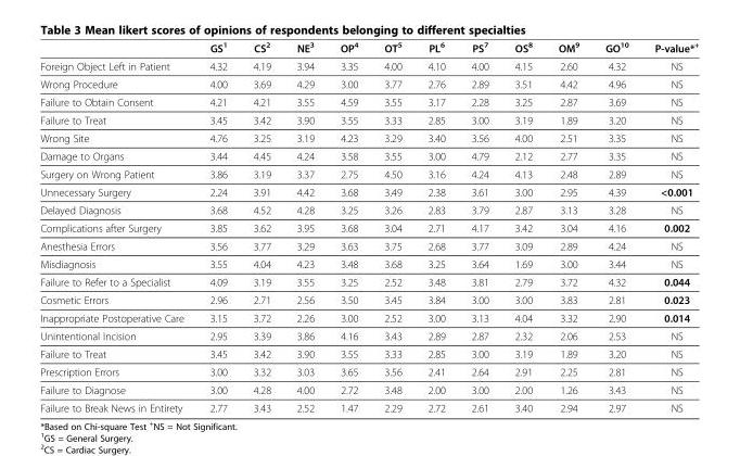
<table><thead><tr><td></td><td>GS<sup>1</sup></td><td>CS<sup>2</sup></td><td>NE<sup>3</sup></td><td>OP<sup>4</sup></td><td>OT<sup>5</sup></td><td>PL<sup>6</sup></td><td>PS<sup>7</sup></td><td>OS<sup>8</sup></td><td>OM<sup>9</sup></td><td>GO<sup>10</sup></td><td>P-value*<sup>+</sup></td></tr></thead><tbody><tr><td>Foreign Object Left in Patient</td><td>4.32</td><td>4.19</td><td>3.94</td><td>3.35</td><td>4.00</td><td>4.10</td><td>4.00</td><td>4.15</td><td>2.60</td><td>4.32</td><td>NS</td></tr><tr><td>Wrong Procedure</td><td>4.00</td><td>3.69</td><td>4.29</td><td>3.00</td><td>3.77</td><td>2.76</td><td>2.89</td><td>3.51</td><td>4.42</td><td>4.96</td><td>NS</td></tr><tr><td>Failure to Obtain Consent</td><td>4.21</td><td>4.21</td><td>3.55</td><td>4.59</td><td>3.55</td><td>3.17</td><td>2.28</td><td>3.25</td><td>2.87</td><td>3.69</td><td>NS</td></tr><tr><td>Failure to Treat</td><td>3.45</td><td>3.42</td><td>3.90</td><td>3.55</td><td>3.33</td><td>2.85</td><td>3.00</td><td>3.19</td><td>1.89</td><td>3.20</td><td>NS</td></tr><tr><td>Wrong Site</td><td>4.76</td><td>3.25</td><td>3.19</td><td>4.23</td><td>3.29</td><td>3.40</td><td>3.56</td><td>4.00</td><td>2.51</td><td>3.35</td><td>NS</td></tr><tr><td>Damage to Organs</td><td>3.44</td><td>4.45</td><td>4.24</td><td>3.58</td><td>3.55</td><td>3.00</td><td>4.79</td><td>2.12</td><td>2.77</td><td>3.35</td><td>NS</td></tr><tr><td>Surgery on Wrong Patient</td><td>3.86</td><td>3.19</td><td>3.37</td><td>2.75</td><td>4.50</td><td>3.16</td><td>4.24</td><td>4.13</td><td>2.48</td><td>2.89</td><td>NS</td></tr><tr><td>Unnecessary Surgery</td><td>2.24</td><td>3.91</td><td>4.42</td><td>3.68</td><td>3.49</td><td>2.38</td><td>3.61</td><td>3.00</td><td>2.95</td><td>4.39</td><td>&lt;0.001</td></tr><tr><td>Delayed Diagnosis</td><td>3.68</td><td>4.52</td><td>4.28</td><td>3.25</td><td>3.26</td><td>2.83</td><td>3.79</td><td>2.87</td><td>3.13</td><td>3.28</td><td>NS</td></tr><tr><td>Complications after Surgery</td><td>3.85</td><td>3.62</td><td>3.95</td><td>3.68</td><td>3.04</td><td>2.71</td><td>4.17</td><td>3.42</td><td>3.04</td><td>4.16</td><td>0.002</td></tr><tr><td>Anesthesia Errors</td><td>3.56</td><td>3.77</td><td>3.29</td><td>3.63</td><td>3.75</td><td>2.68</td><td>3.77</td><td>3.09</td><td>2.89</td><td>4.24</td><td>NS</td></tr><tr><td>Misdiagnosis</td><td>3.55</td><td>4.04</td><td>4.23</td><td>3.48</td><td>3.68</td><td>3.25</td><td>3.64</td><td>1.69</td><td>3.00</td><td>3.44</td><td>NS</td></tr><tr><td>Failure to Refer to a Specialist</td><td>4.09</td><td>3.19</td><td>3.55</td><td>3.25</td><td>2.52</td><td>3.48</td><td>3.81</td><td>2.79</td><td>3.72</td><td>4.32</td><td>0.044</td></tr><tr><td>Cosmetic Errors</td><td>2.96</td><td>2.71</td><td>2.56</td><td>3.50</td><td>3.45</td><td>3.84</td><td>3.00</td><td>3.00</td><td>3.83</td><td>2.81</td><td>0.023</td></tr><tr><td>Inappropriate Postoperative Care</td><td>3.15</td><td>3.72</td><td>2.26</td><td>3.00</td><td>2.52</td><td>3.00</td><td>3.13</td><td>4.04</td><td>3.32</td><td>2.90</td><td>0.014</td></tr><tr><td>Unintentional Incision</td><td>2.95</td><td>3.39</td><td>3.86</td><td>4.16</td><td>3.43</td><td>2.89</td><td>2.87</td><td>2.32</td><td>2.06</td><td>2.53</td><td>NS</td></tr><tr><td>Failure to Treat</td><td>3.45</td><td>3.42</td><td>3.90</td><td>3.55</td><td>3.33</td><td>2.85</td><td>3.00</td><td>3.19</td><td>1.89</td><td>3.20</td><td>NS</td></tr><tr><td>Prescription Errors</td><td>3.00</td><td>3.32</td><td>3.03</td><td>3.65</td><td>3.56</td><td>2.41</td><td>2.64</td><td>2.91</td><td>2.25</td><td>2.81</td><td>NS</td></tr><tr><td>Failure to Diagnose</td><td>3.00</td><td>4.28</td><td>4.00</td><td>2.72</td><td>3.48</td><td>2.00</td><td>3.00</td><td>2.00</td><td>1.26</td><td>3.43</td><td>NS</td></tr><tr><td>Failure to Break News in Entirety</td><td>2.77</td><td>3.43</td><td>2.52</td><td>1.47</td><td>2.29</td><td>2.72</td><td>2.61</td><td>3.40</td><td>2.94</td><td>2.97</td><td>NS</td></tr></tbody></table>